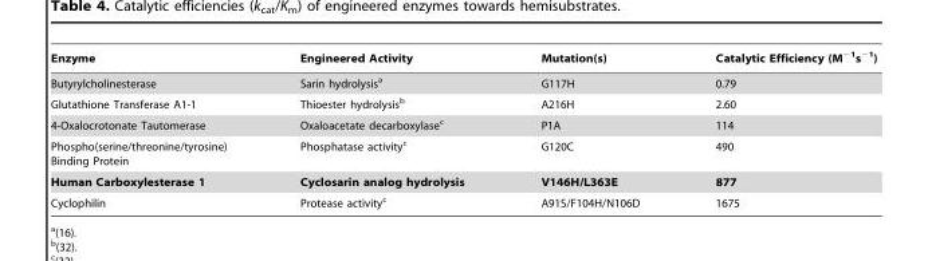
<table><thead><tr><td>Enzyme</td><td>Engineered Activity</td><td>Mutation(s)</td><td>Catalytic Efficiency (M<sup>−1</sup>s<sup>−1</sup>)</td></tr></thead><tbody><tr><td>Butyrylcholinesterase</td><td>Sarin hydrolysis<sup>a</sup></td><td>G117H</td><td>0.79</td></tr><tr><td>Glutathione Transferase A1-1</td><td>Thioester hydrolysis<sup>b</sup></td><td>A216H</td><td>2.60</td></tr><tr><td>4-Oxalocrotonate Tautomerase</td><td>Oxaloacetate decarboxylase<sup>c</sup></td><td>P1A</td><td>114</td></tr><tr><td>Phospho(serine/threonine/tyrosine) Binding Protein</td><td>Phosphatase activity<sup>c</sup></td><td>G120C</td><td>490</td></tr><tr><td>Human Carboxylesterase 1</td><td>Cyclosarin analog hydrolysis</td><td>V146H/L363E</td><td>877</td></tr><tr><td>Cyclophilin</td><td>Protease activity<sup>c</sup></td><td>A91S/F104H/N106D</td><td>1675</td></tr></tbody></table>